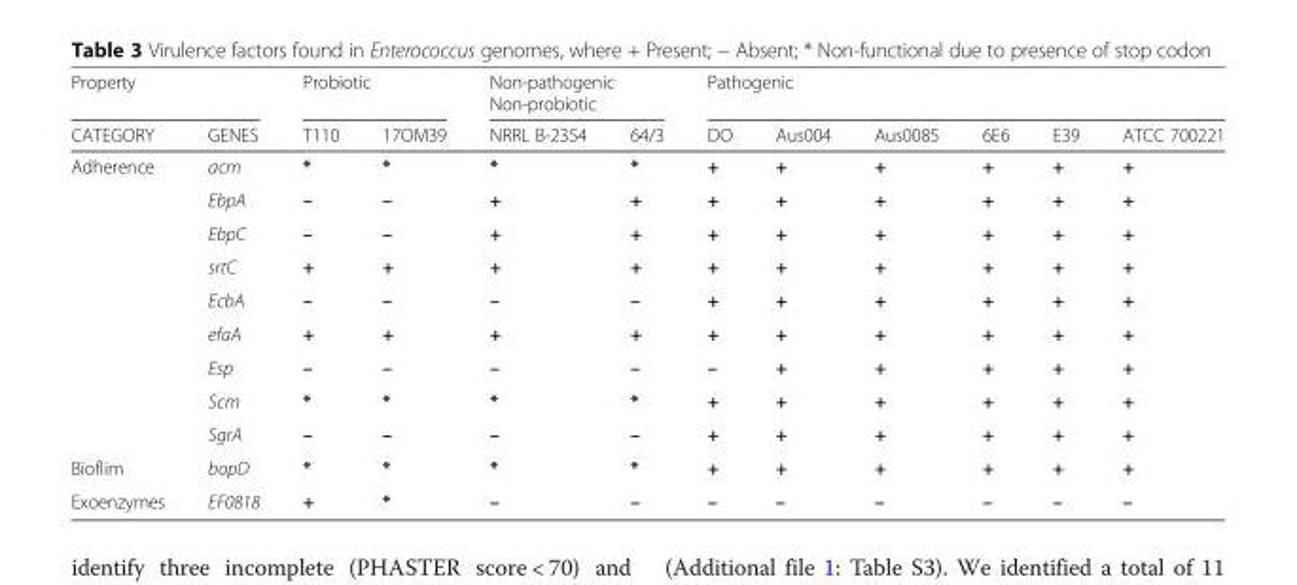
<table><thead><tr><td colspan="2">Property</td><td colspan="2">Probiotic</td><td colspan="2">Non-pathogenic Non-probiotic</td><td colspan="6">Pathogenic</td></tr><tr><td>CATEGORY</td><td>GENES</td><td>T110</td><td>17OM39</td><td>NRRL B-2354</td><td>64/3</td><td>DO</td><td>Aus004</td><td>Aus0085</td><td>6E6</td><td>E39</td><td>ATCC 700221</td></tr></thead><tbody><tr><td rowspan="9">Adherence</td><td>acm</td><td>*</td><td>*</td><td>*</td><td>*</td><td>+</td><td>+</td><td>+</td><td>+</td><td>+</td><td>+</td></tr><tr><td>EbpA</td><td>–</td><td>–</td><td>+</td><td>+</td><td>+</td><td>+</td><td>+</td><td>+</td><td>+</td><td>+</td></tr><tr><td>EbpC</td><td>–</td><td>–</td><td>+</td><td>+</td><td>+</td><td>+</td><td>+</td><td>+</td><td>+</td><td>+</td></tr><tr><td>srtC</td><td>+</td><td>+</td><td>+</td><td>+</td><td>+</td><td>+</td><td>+</td><td>+</td><td>+</td><td>+</td></tr><tr><td>EcbA</td><td>–</td><td>–</td><td>–</td><td>–</td><td>+</td><td>+</td><td>+</td><td>+</td><td>+</td><td>+</td></tr><tr><td>efaA</td><td>+</td><td>+</td><td>+</td><td>+</td><td>+</td><td>+</td><td>+</td><td>+</td><td>+</td><td>+</td></tr><tr><td>Esp</td><td>–</td><td>–</td><td>–</td><td>–</td><td>–</td><td>+</td><td>+</td><td>+</td><td>+</td><td>+</td></tr><tr><td>Scm</td><td>*</td><td>*</td><td>*</td><td>*</td><td>+</td><td>+</td><td>+</td><td>+</td><td>+</td><td>+</td></tr><tr><td>SgrA</td><td>–</td><td>–</td><td>–</td><td>–</td><td>+</td><td>+</td><td>+</td><td>+</td><td>+</td><td>+</td></tr><tr><td>Bioflim</td><td>bopD</td><td>*</td><td>*</td><td>*</td><td>*</td><td>+</td><td>+</td><td>+</td><td>+</td><td>+</td><td>+</td></tr><tr><td>Exoenzymes</td><td>EF0818</td><td>+</td><td>*</td><td>–</td><td>–</td><td>–</td><td>–</td><td>–</td><td>–</td><td>–</td><td>–</td></tr></tbody></table>